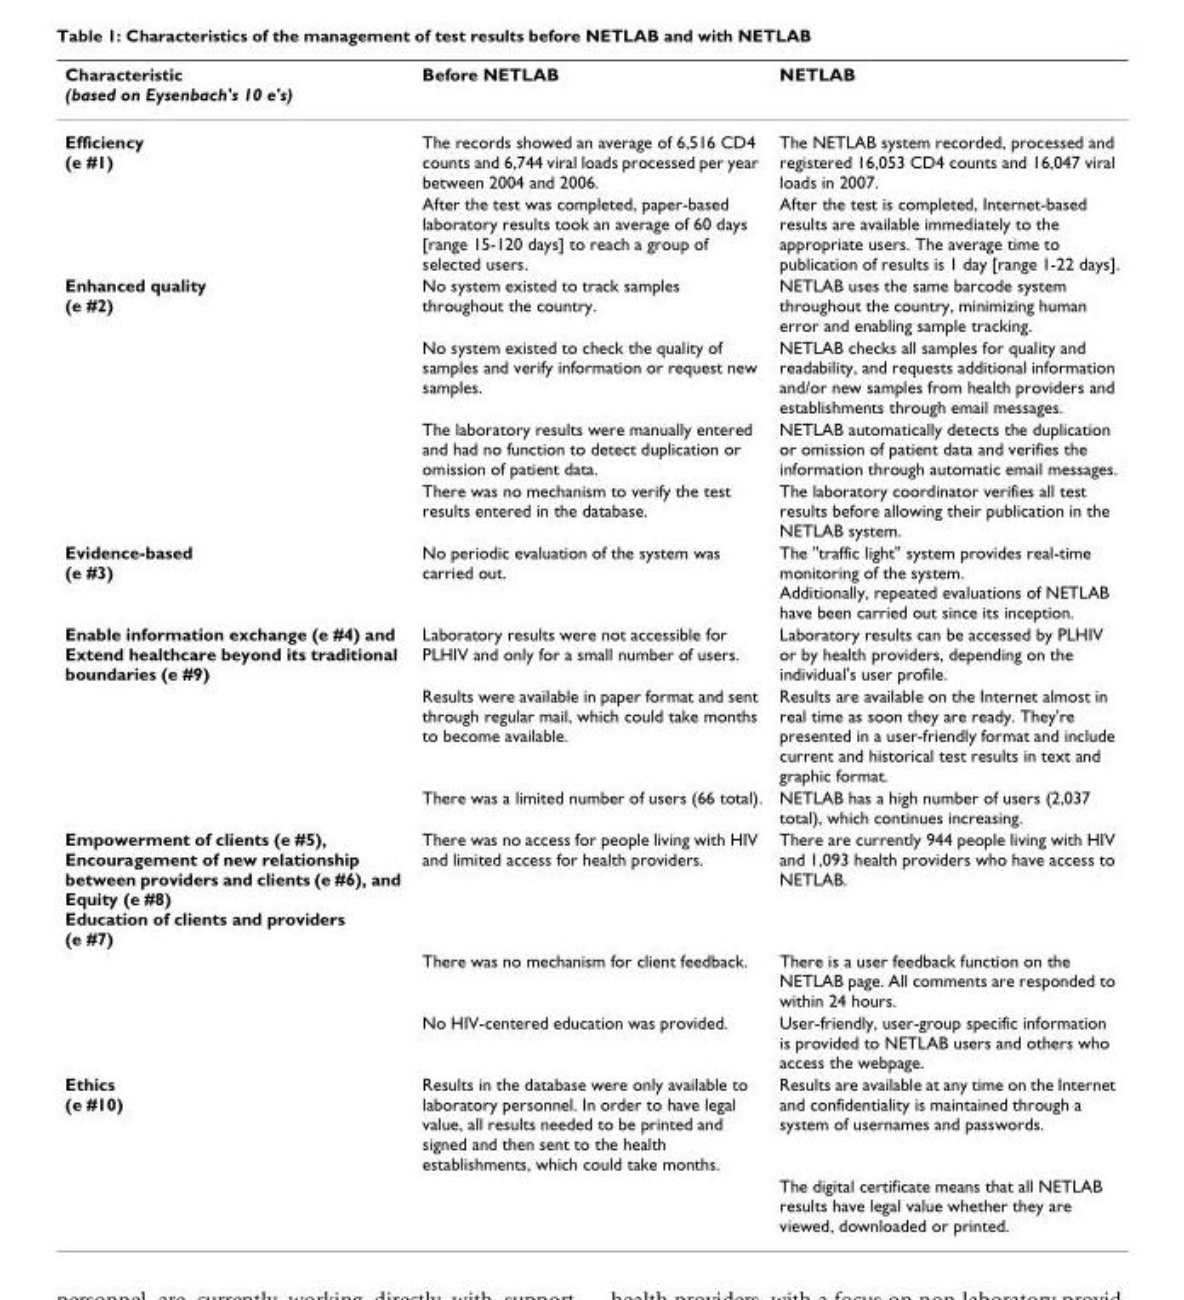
<table><thead><tr><td>Characteristic (based on Eysenbach&#x27;s 10 e&#x27;s)</td><td>Before NETLAB</td><td>NETLAB</td></tr></thead><tbody><tr><td rowspan="2">Efficiency (e #1)</td><td>The records showed an average of 6,516 CD4 counts and 6,744 viral loads processed per year between 2004 and 2006.</td><td>The NETLAB system recorded, processed and registered 16,053 CD4 counts and 16,047 viral loads in 2007.</td></tr><tr><td>After the test was completed, paper-based laboratory results took an average of 60 days [range 15-120 days] to reach a group of selected users.</td><td>After the test is completed, Internet-based results are available immediately to the appropriate users. The average time to publication of results is 1 day [range 1-22 days].</td></tr><tr><td rowspan="4">Enhanced quality (e #2)</td><td>No system existed to track samples throughout the country.</td><td>NETLAB uses the same barcode system throughout the country, minimizing human error and enabling sample tracking.</td></tr><tr><td>No system existed to check the quality of samples and verify information or request new samples.</td><td>NETLAB checks all samples for quality and readability, and requests additional information and/or new samples from health providers and establishments through email messages.</td></tr><tr><td>The laboratory results were manually entered and had no function to detect duplication or omission of patient data.</td><td>NETLAB automatically detects the duplication or omission of patient data and verifies the information through automatic email messages.</td></tr><tr><td>There was no mechanism to verify the test results entered in the database.</td><td>The laboratory coordinator verifies all test results before allowing their publication in the NETLAB system.</td></tr><tr><td>Evidence-based (e #3)</td><td>No periodic evaluation of the system was carried out.</td><td>The &quot;traffic light&quot; system provides real-time monitoring of the system. Additionally, repeated evaluations of NETLAB have been carried out since its inception.</td></tr><tr><td rowspan="3">Enable information exchange (e #4) and Extend healthcare beyond its traditional boundaries (e #9)</td><td>Laboratory results were not accessible for PLHIV and only for a small number of users.</td><td>Laboratory results can be accessed by PLHIV or by health providers, depending on the individual&#x27;s user profile.</td></tr><tr><td>Results were available in paper format and sent through regular mail, which could take months to become available.</td><td>Results are available on the Internet almost in real time as soon they are ready. They&#x27;re presented in a user-friendly format and include current and historical test results in text and graphic format.</td></tr><tr><td>There was a limited number of users (66 total).</td><td>NETLAB has a high number of users (2,037 total), which continues increasing.</td></tr><tr><td rowspan="3">Empowerment of clients (e #5), Encouragement of new relationship between providers and clients (e #6), and Equity (e #8) Education of clients and providers (e #7)</td><td>There was no access for people living with HIV and limited access for health providers.</td><td>There are currently 944 people living with HIV and 1,093 health providers who have access to NETLAB.</td></tr><tr><td>There was no mechanism for client feedback.</td><td>There is a user feedback function on the NETLAB page. All comments are responded to within 24 hours.</td></tr><tr><td>No HIV-centered education was provided.</td><td>User-friendly, user-group specific information is provided to NETLAB users and others who access the webpage.</td></tr><tr><td rowspan="2">Ethics (e #10)</td><td>Results in the database were only available to laboratory personnel. In order to have legal value, all results needed to be printed and signed and then sent to the health establishments, which could take months.</td><td>Results are available at any time on the Internet and confidentiality is maintained through a system of usernames and passwords.</td></tr><tr><td></td><td>The digital certificate means that all NETLAB results have legal value whether they are viewed, downloaded or printed.</td></tr></tbody></table>